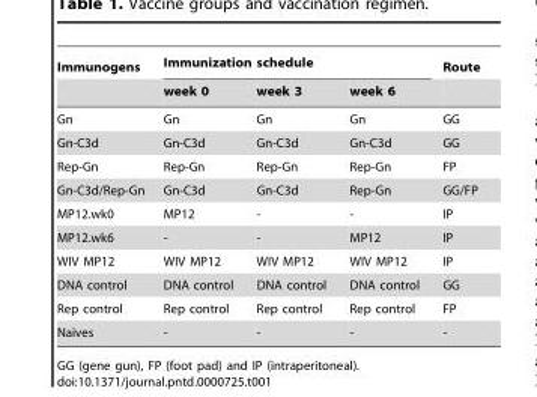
<table><thead><tr><td rowspan="2">Immunogens</td><td colspan="3">Immunization schedule</td><td rowspan="2">Route</td></tr><tr><td>week 0</td><td>week 3</td><td>week 6</td></tr></thead><tbody><tr><td>Gn</td><td>Gn</td><td>Gn</td><td>Gn</td><td>GG</td></tr><tr><td>Gn-C3d</td><td>Gn-C3d</td><td>Gn-C3d</td><td>Gn-C3d</td><td>GG</td></tr><tr><td>Rep-Gn</td><td>Rep-Gn</td><td>Rep-Gn</td><td>Rep-Gn</td><td>FP</td></tr><tr><td>Gn-C3d/Rep-Gn</td><td>Gn-C3d</td><td>Gn-C3d</td><td>Rep-Gn</td><td>GG/FP</td></tr><tr><td>MP12.wk0</td><td>MP12</td><td>-</td><td>-</td><td>IP</td></tr><tr><td>MP12.wk6</td><td>-</td><td>-</td><td>MP12</td><td>IP</td></tr><tr><td>WIV MP12</td><td>WIV MP12</td><td>WIV MP12</td><td>WIV MP12</td><td>IP</td></tr><tr><td>DNA control</td><td>DNA control</td><td>DNA control</td><td>DNA control</td><td>GG</td></tr><tr><td>Rep control</td><td>Rep control</td><td>Rep control</td><td>Rep control</td><td>FP</td></tr><tr><td>Naives</td><td>-</td><td>-</td><td>-</td><td>-</td></tr></tbody></table>